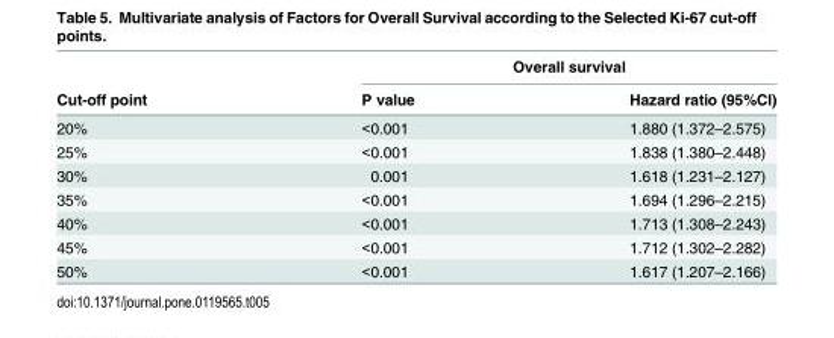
<table><thead><tr><td rowspan="2">Cut-off point</td><td colspan="2">Overall survival</td></tr><tr><td>P value</td><td>Hazard ratio (95%CI)</td></tr></thead><tbody><tr><td>20%</td><td>&lt;0.001</td><td>1.880 (1.372–2.575)</td></tr><tr><td>25%</td><td>&lt;0.001</td><td>1.838 (1.380–2.448)</td></tr><tr><td>30%</td><td>0.001</td><td>1.618 (1.231–2.127)</td></tr><tr><td>35%</td><td>&lt;0.001</td><td>1.694 (1.296–2.215)</td></tr><tr><td>40%</td><td>&lt;0.001</td><td>1.713 (1.308–2.243)</td></tr><tr><td>45%</td><td>&lt;0.001</td><td>1.712 (1.302–2.282)</td></tr><tr><td>50%</td><td>&lt;0.001</td><td>1.617 (1.207–2.166)</td></tr></tbody></table>